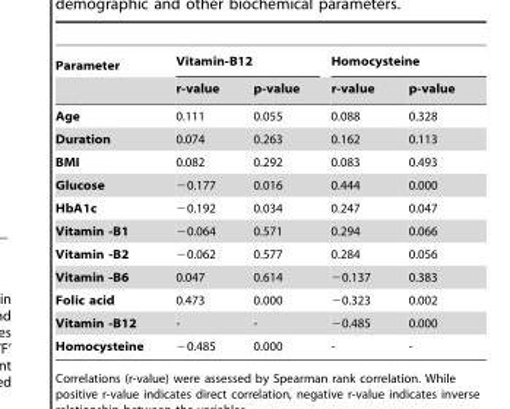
<table><thead><tr><td rowspan="2">Parameter</td><td colspan="2">Vitamin-B12</td><td colspan="2">Homocysteine</td></tr><tr><td>r-value</td><td>p-value</td><td>r-value</td><td>p-value</td></tr></thead><tbody><tr><td>Age</td><td>0.111</td><td>0.055</td><td>0.088</td><td>0.328</td></tr><tr><td>Duration</td><td>0.074</td><td>0.263</td><td>0.162</td><td>0.113</td></tr><tr><td>BMI</td><td>0.082</td><td>0.292</td><td>0.083</td><td>0.493</td></tr><tr><td>Glucose</td><td>−0.177</td><td>0.016</td><td>0.444</td><td>0.000</td></tr><tr><td>HbA1c</td><td>−0.192</td><td>0.034</td><td>0.247</td><td>0.047</td></tr><tr><td>Vitamin -B1</td><td>−0.064</td><td>0.571</td><td>0.294</td><td>0.066</td></tr><tr><td>Vitamin -B2</td><td>−0.062</td><td>0.577</td><td>0.284</td><td>0.056</td></tr><tr><td>Vitamin -B6</td><td>0.047</td><td>0.614</td><td>−0.137</td><td>0.383</td></tr><tr><td>Folic acid</td><td>0.473</td><td>0.000</td><td>−0.323</td><td>0.002</td></tr><tr><td>Vitamin -B12</td><td>-</td><td>-</td><td>−0.485</td><td>0.000</td></tr><tr><td>Homocysteine</td><td>−0.485</td><td>0.000</td><td>-</td><td>-</td></tr></tbody></table>